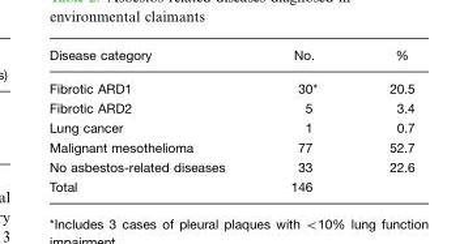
<table><thead><tr><td>Disease category</td><td>No.</td><td>%</td></tr></thead><tbody><tr><td>Fibrotic ARD1</td><td>30*</td><td>20.5</td></tr><tr><td>Fibrotic ARD2</td><td>5</td><td>3.4</td></tr><tr><td>Lung cancer</td><td>1</td><td>0.7</td></tr><tr><td>Malignant mesothelioma</td><td>77</td><td>52.7</td></tr><tr><td>No asbestos-related diseases</td><td>33</td><td>22.6</td></tr><tr><td>Total</td><td>146</td><td></td></tr></tbody></table>